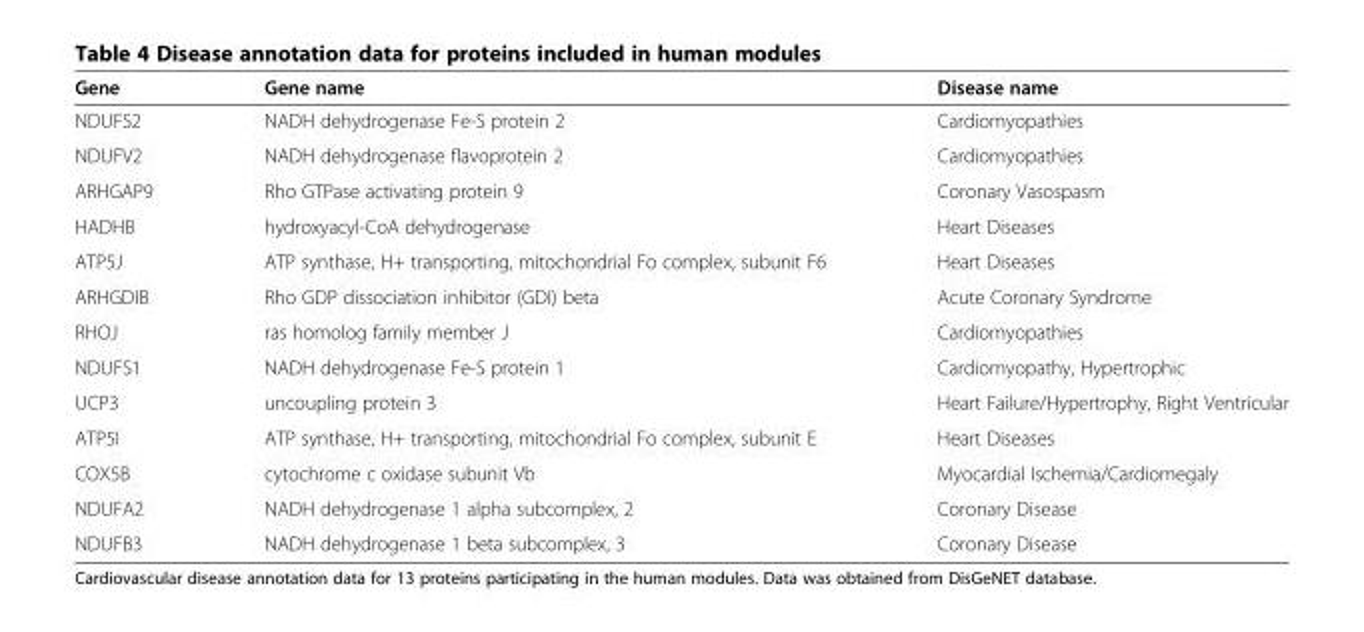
<table><thead><tr><td>Gene</td><td>Gene name</td><td>Disease name</td></tr></thead><tbody><tr><td>NDUFS2</td><td>NADH dehydrogenase Fe-S protein 2</td><td>Cardiomyopathies</td></tr><tr><td>NDUFV2</td><td>NADH dehydrogenase flavoprotein 2</td><td>Cardiomyopathies</td></tr><tr><td>ARHGAP9</td><td>Rho GTPase activating protein 9</td><td>Coronary Vasospasm</td></tr><tr><td>HADHB</td><td>hydroxyacyl-CoA dehydrogenase</td><td>Heart Diseases</td></tr><tr><td>ATP5J</td><td>ATP synthase, H+ transporting, mitochondrial Fo complex, subunit F6</td><td>Heart Diseases</td></tr><tr><td>ARHGDIB</td><td>Rho GDP dissociation inhibitor (GDI) beta</td><td>Acute Coronary Syndrome</td></tr><tr><td>RHOJ</td><td>ras homolog family member J</td><td>Cardiomyopathies</td></tr><tr><td>NDUFS1</td><td>NADH dehydrogenase Fe-S protein 1</td><td>Cardiomyopathy, Hypertrophic</td></tr><tr><td>UCP3</td><td>uncoupling protein 3</td><td>Heart Failure/Hypertrophy, Right Ventricular</td></tr><tr><td>ATP5I</td><td>ATP synthase, H+ transporting, mitochondrial Fo complex, subunit E</td><td>Heart Diseases</td></tr><tr><td>COX5B</td><td>cytochrome c oxidase subunit Vb</td><td>Myocardial Ischemia/Cardiomegaly</td></tr><tr><td>NDUFA2</td><td>NADH dehydrogenase 1 alpha subcomplex, 2</td><td>Coronary Disease</td></tr><tr><td>NDUFB3</td><td>NADH dehydrogenase 1 beta subcomplex, 3</td><td>Coronary Disease</td></tr></tbody></table>